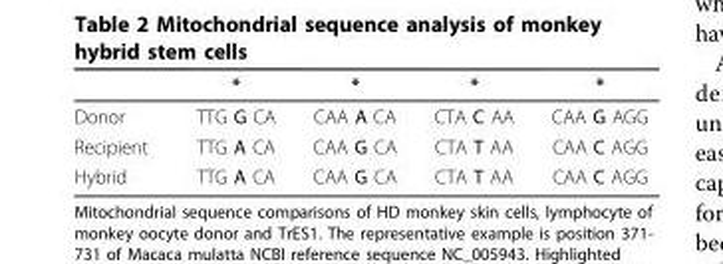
<table><thead><tr><td></td><td>*</td><td>*</td><td>*</td><td>*</td></tr></thead><tbody><tr><td>Donor</td><td>TTG G CA</td><td>CAA A CA</td><td>CTA C AA</td><td>CAA G AGG</td></tr><tr><td>Recipient</td><td>TTG A CA</td><td>CAA G CA</td><td>CTA T AA</td><td>CAA C AGG</td></tr><tr><td>Hybrid</td><td>TTG A CA</td><td>CAA G CA</td><td>CTA T AA</td><td>CAA C AGG</td></tr></tbody></table>